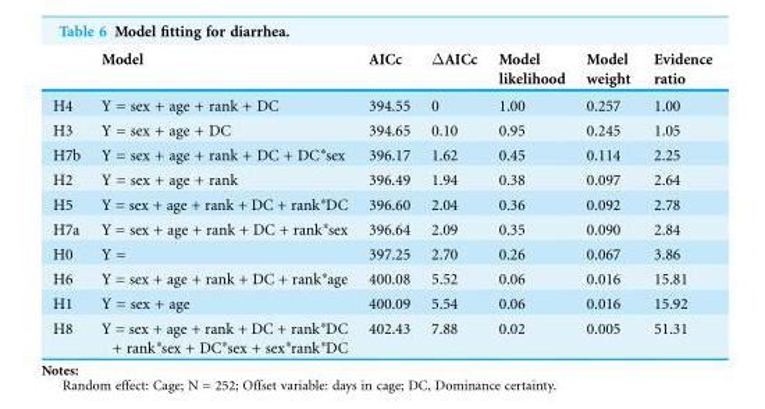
<table><thead><tr><td></td><td>Model</td><td>AICc</td><td>ΔAICc</td><td>Model likelihood</td><td>Model weight</td><td>Evidence ratio</td></tr></thead><tbody><tr><td>H4</td><td>Y = sex + age + rank + DC</td><td>394.55</td><td>0</td><td>1.00</td><td>0.257</td><td>1.00</td></tr><tr><td>H3</td><td>Y = sex + age + DC</td><td>394.65</td><td>0.10</td><td>0.95</td><td>0.245</td><td>1.05</td></tr><tr><td>H7b</td><td>Y = sex + age + rank + DC + DC*sex</td><td>396.17</td><td>1.62</td><td>0.45</td><td>0.114</td><td>2.25</td></tr><tr><td>H2</td><td>Y = sex + age + rank</td><td>396.49</td><td>1.94</td><td>0.38</td><td>0.097</td><td>2.64</td></tr><tr><td>H5</td><td>Y = sex + age + rank + DC + rank*DC</td><td>396.60</td><td>2.04</td><td>0.36</td><td>0.092</td><td>2.78</td></tr><tr><td>H7a</td><td>Y = sex + age + rank + DC + rank*sex</td><td>396.64</td><td>2.09</td><td>0.35</td><td>0.090</td><td>2.84</td></tr><tr><td>H0</td><td>Y =</td><td>397.25</td><td>2.70</td><td>0.26</td><td>0.067</td><td>3.86</td></tr><tr><td>H6</td><td>Y = sex + age + rank + DC + rank*age</td><td>400.08</td><td>5.52</td><td>0.06</td><td>0.016</td><td>15.81</td></tr><tr><td>H1</td><td>Y = sex + age</td><td>400.09</td><td>5.54</td><td>0.06</td><td>0.016</td><td>15.92</td></tr><tr><td>H8</td><td>Y = sex + age + rank + DC + rank*DC + rank*sex + DC*sex + sex*rank*DC</td><td>402.43</td><td>7.88</td><td>0.02</td><td>0.005</td><td>51.31</td></tr></tbody></table>